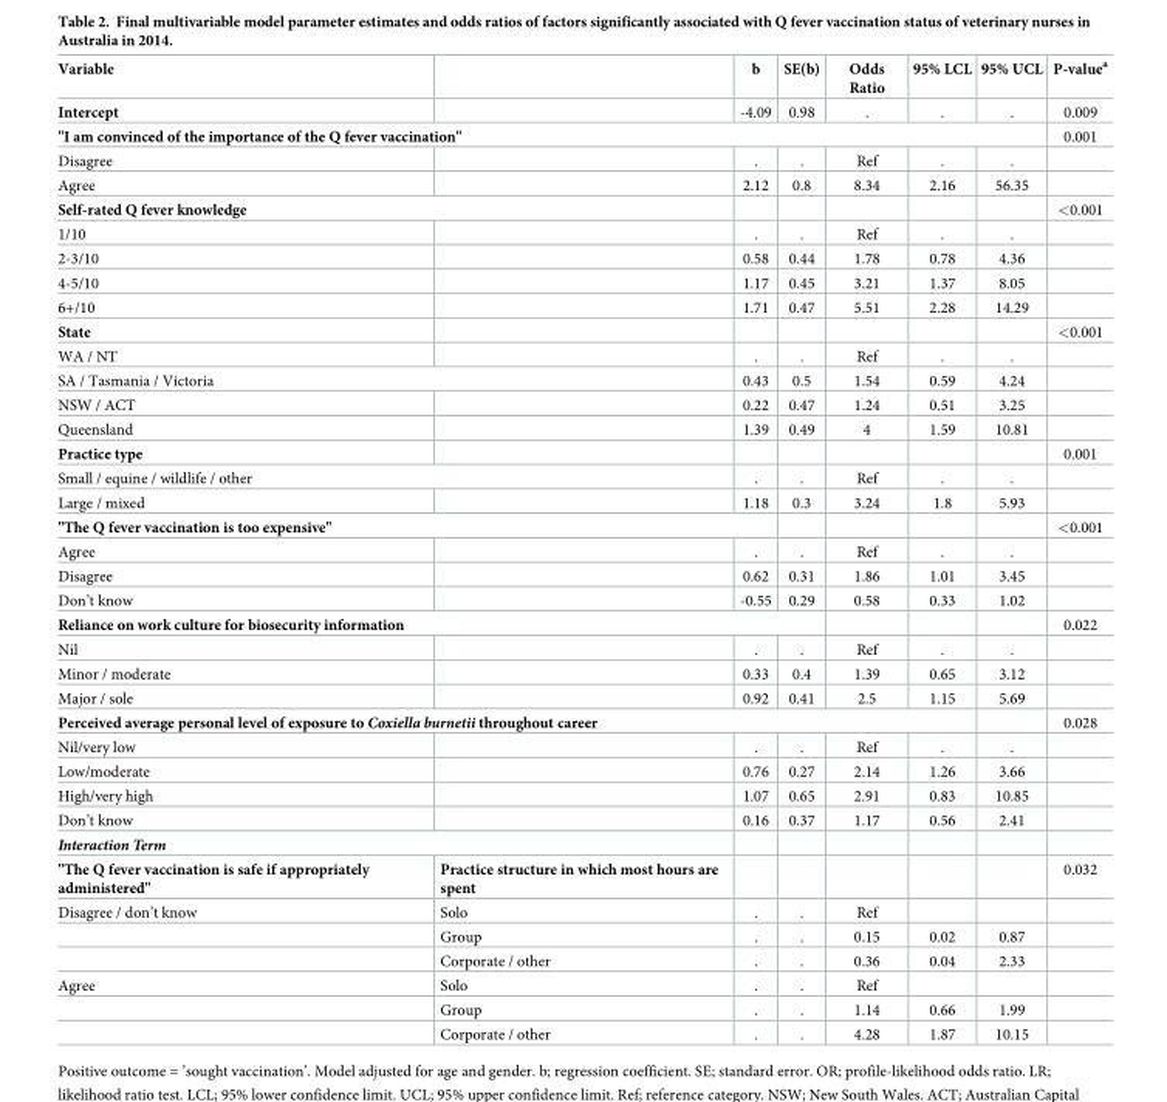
<table><thead><tr><td>Variable</td><td></td><td>b</td><td>SE(b)</td><td>Odds Ratio</td><td>95% LCL</td><td>95% UCL</td><td>P-value<sup>a</sup></td></tr></thead><tbody><tr><td>Intercept</td><td></td><td>-4.09</td><td>0.98</td><td>.</td><td>.</td><td>.</td><td>0.009</td></tr><tr><td colspan="7">&quot;I am convinced of the importance of the Q fever vaccination&quot;</td><td>0.001</td></tr><tr><td>Disagree</td><td></td><td>.</td><td>.</td><td>Ref</td><td>.</td><td>.</td><td></td></tr><tr><td>Agree</td><td></td><td>2.12</td><td>0.8</td><td>8.34</td><td>2.16</td><td>56.35</td><td></td></tr><tr><td colspan="2">Self-rated Q fever knowledge</td><td></td><td></td><td></td><td></td><td></td><td>&lt;0.001</td></tr><tr><td>1/10</td><td></td><td>.</td><td>.</td><td>Ref</td><td>.</td><td>.</td><td></td></tr><tr><td>2-3/10</td><td></td><td>0.58</td><td>0.44</td><td>1.78</td><td>0.78</td><td>4.36</td><td></td></tr><tr><td>4-5/10</td><td></td><td>1.17</td><td>0.45</td><td>3.21</td><td>1.37</td><td>8.05</td><td></td></tr><tr><td>6+/10</td><td></td><td>1.71</td><td>0.47</td><td>5.51</td><td>2.28</td><td>14.29</td><td></td></tr><tr><td>State</td><td></td><td></td><td></td><td></td><td></td><td></td><td>&lt;0.001</td></tr><tr><td>WA / NT</td><td></td><td>.</td><td>.</td><td>Ref</td><td>.</td><td>.</td><td></td></tr><tr><td colspan="2">SA / Tasmania / Victoria</td><td>0.43</td><td>0.5</td><td>1.54</td><td>0.59</td><td>4.24</td><td></td></tr><tr><td>NSW / ACT</td><td></td><td>0.22</td><td>0.47</td><td>1.24</td><td>0.51</td><td>3.25</td><td></td></tr><tr><td>Queensland</td><td></td><td>1.39</td><td>0.49</td><td>4</td><td>1.59</td><td>10.81</td><td></td></tr><tr><td>Practice type</td><td></td><td></td><td></td><td></td><td></td><td></td><td>0.001</td></tr><tr><td colspan="2">Small / equine / wildlife / other</td><td>.</td><td>.</td><td>Ref</td><td>.</td><td>.</td><td></td></tr><tr><td>Large / mixed</td><td></td><td>1.18</td><td>0.3</td><td>3.24</td><td>1.8</td><td>5.93</td><td></td></tr><tr><td colspan="3">&quot;The Q fever vaccination is too expensive&quot;</td><td></td><td></td><td></td><td></td><td>&lt;0.001</td></tr><tr><td>Agree</td><td></td><td>.</td><td>.</td><td>Ref</td><td>.</td><td>.</td><td></td></tr><tr><td>Disagree</td><td></td><td>0.62</td><td>0.31</td><td>1.86</td><td>1.01</td><td>3.45</td><td></td></tr><tr><td>Don’t know</td><td></td><td>-0.55</td><td>0.29</td><td>0.58</td><td>0.33</td><td>1.02</td><td></td></tr><tr><td colspan="4">Reliance on work culture for biosecurity information</td><td></td><td></td><td></td><td>0.022</td></tr><tr><td>Nil</td><td></td><td>.</td><td>.</td><td>Ref</td><td>.</td><td>.</td><td></td></tr><tr><td>Minor / moderate</td><td></td><td>0.33</td><td>0.4</td><td>1.39</td><td>0.65</td><td>3.12</td><td></td></tr><tr><td>Major / sole</td><td></td><td>0.92</td><td>0.41</td><td>2.5</td><td>1.15</td><td>5.69</td><td></td></tr><tr><td colspan="6">Perceived average personal level of exposure to Coxiella burnetii throughout career</td><td></td><td>0.028</td></tr><tr><td>Nil/very low</td><td></td><td>.</td><td>.</td><td>Ref</td><td>.</td><td>.</td><td></td></tr><tr><td>Low/moderate</td><td></td><td>0.76</td><td>0.27</td><td>2.14</td><td>1.26</td><td>3.66</td><td></td></tr><tr><td>High/very high</td><td></td><td>1.07</td><td>0.65</td><td>2.91</td><td>0.83</td><td>10.85</td><td></td></tr><tr><td>Don’t know</td><td></td><td>0.16</td><td>0.37</td><td>1.17</td><td>0.56</td><td>2.41</td><td></td></tr><tr><td colspan="8">Interaction Term</td></tr><tr><td>&quot;The Q fever vaccination is safe if appropriately administered&quot;</td><td>Practice structure in which most hours are spent</td><td></td><td></td><td></td><td></td><td></td><td>0.032</td></tr><tr><td rowspan="3">Disagree / don’t know</td><td>Solo</td><td>.</td><td>.</td><td>Ref</td><td></td><td></td><td></td></tr><tr><td>Group</td><td>.</td><td>.</td><td>0.15</td><td>0.02</td><td>0.87</td><td></td></tr><tr><td>Corporate / other</td><td>.</td><td>.</td><td>0.36</td><td>0.04</td><td>2.33</td><td></td></tr><tr><td rowspan="3">Agree</td><td>Solo</td><td>.</td><td>.</td><td>Ref</td><td></td><td></td><td></td></tr><tr><td>Group</td><td>.</td><td>.</td><td>1.14</td><td>0.66</td><td>1.99</td><td></td></tr><tr><td>Corporate / other</td><td>.</td><td>.</td><td>4.28</td><td>1.87</td><td>10.15</td><td></td></tr></tbody></table>